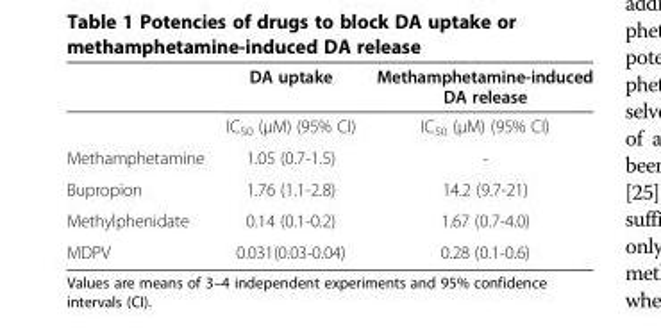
<table><thead><tr><td></td><td>DA uptake</td><td>Methamphetamine-induced DA release</td></tr></thead><tbody><tr><td></td><td>IC<sub>50</sub> (μM) (95% CI)</td><td>IC<sub>50</sub> (μM) (95% CI)</td></tr><tr><td>Methamphetamine</td><td>1.05 (0.7-1.5)</td><td>-</td></tr><tr><td>Bupropion</td><td>1.76 (1.1-2.8)</td><td>14.2 (9.7-21)</td></tr><tr><td>Methylphenidate</td><td>0.14 (0.1-0.2)</td><td>1.67 (0.7-4.0)</td></tr><tr><td>MDPV</td><td>0.031(0.03-0.04)</td><td>0.28 (0.1-0.6)</td></tr></tbody></table>